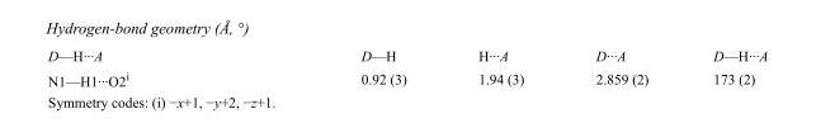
<table><tbody><tr><td>D—H···A</td><td>D—H</td><td>H···A</td><td>D···A</td><td>D—H···A</td></tr><tr><td>N1—H1···O2<sup>i</sup></td><td>0.92 (3)</td><td>1.94 (3)</td><td>2.859 (2)</td><td>173 (2)</td></tr></tbody></table>